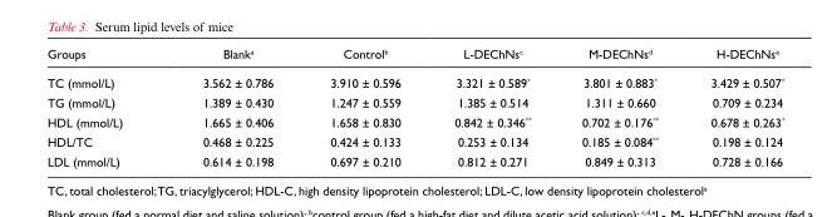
<table><thead><tr><td>Groups</td><td>Blank<sup>a</sup></td><td>Control<sup>b</sup></td><td>L-DEChNs<sup>c</sup></td><td>M-DEChNs<sup>d</sup></td><td>H-DEChNs<sup>e</sup></td></tr></thead><tbody><tr><td>TC (mmol/L)</td><td>3.562 ± 0.786</td><td>3.910 ± 0.596</td><td>3.321 ± 0.589*</td><td>3.801 ± 0.883*</td><td>3.429 ± 0.507*</td></tr><tr><td>TG (mmol/L)</td><td>1.389 ± 0.430</td><td>1.247 ± 0.559</td><td>1.385 ± 0.514</td><td>1.311 ± 0.660</td><td>0.709 ± 0.234</td></tr><tr><td>HDL (mmol/L)</td><td>1.665 ± 0.406</td><td>1.658 ± 0.830</td><td>0.842 ± 0.346**</td><td>0.702 ± 0.176**</td><td>0.678 ± 0.263*</td></tr><tr><td>HDL/TC</td><td>0.468 ± 0.225</td><td>0.424 ± 0.133</td><td>0.253 ± 0.134</td><td>0.185 ± 0.084**</td><td>0.198 ± 0.124</td></tr><tr><td>LDL (mmol/L)</td><td>0.614 ± 0.198</td><td>0.697 ± 0.210</td><td>0.812 ± 0.271</td><td>0.849 ± 0.313</td><td>0.728 ± 0.166</td></tr></tbody></table>